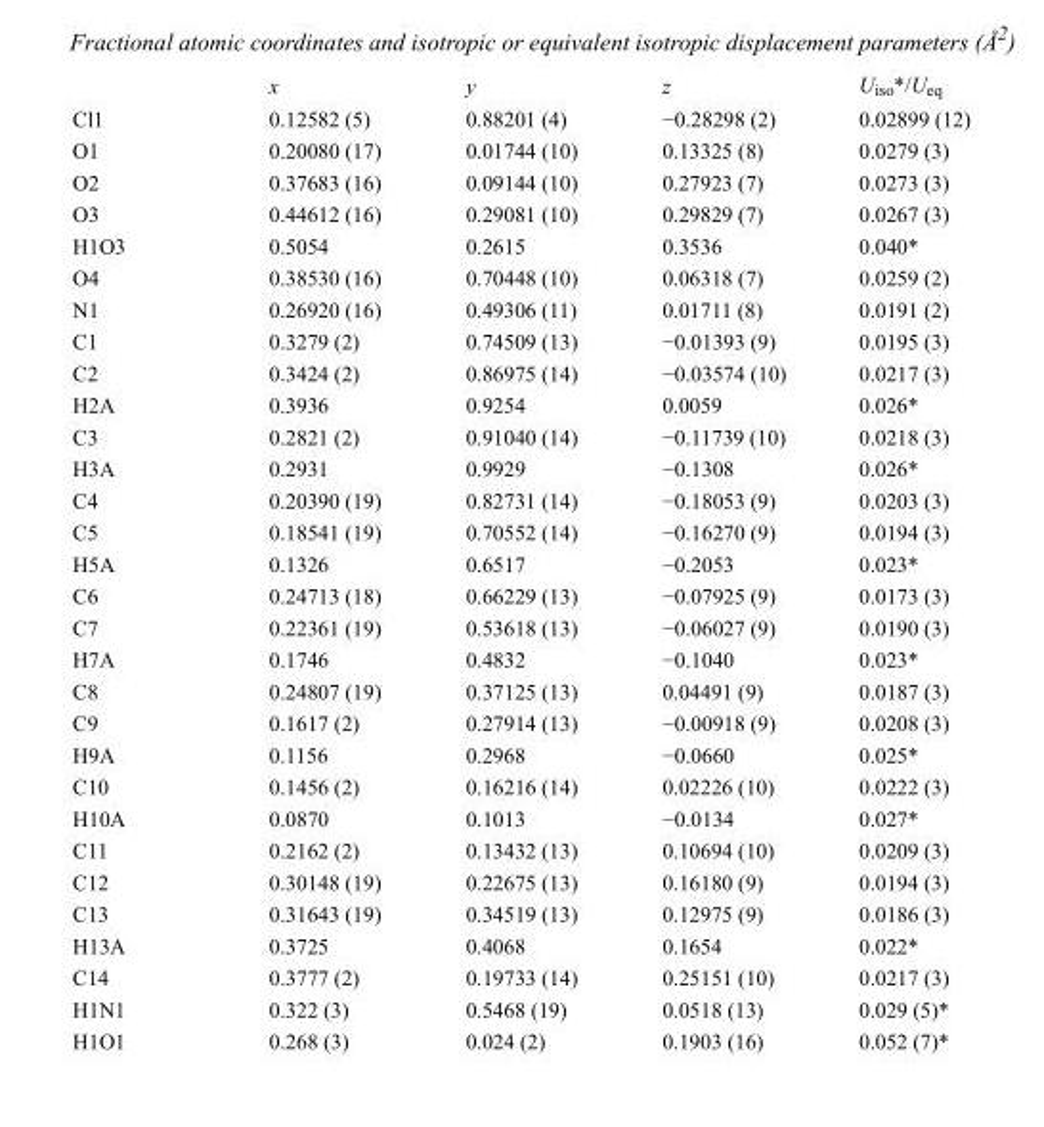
<table><thead><tr><td></td><td>x</td><td>y</td><td>z</td><td>U<sub>iso</sub>*/U<sub>eq</sub></td></tr></thead><tbody><tr><td>Cl1</td><td>0.12582 (5)</td><td>0.88201 (4)</td><td>−0.28298 (2)</td><td>0.02899 (12)</td></tr><tr><td>O1</td><td>0.20080 (17)</td><td>0.01744 (10)</td><td>0.13325 (8)</td><td>0.0279 (3)</td></tr><tr><td>O2</td><td>0.37683 (16)</td><td>0.09144 (10)</td><td>0.27923 (7)</td><td>0.0273 (3)</td></tr><tr><td>O3</td><td>0.44612 (16)</td><td>0.29081 (10)</td><td>0.29829 (7)</td><td>0.0267 (3)</td></tr><tr><td>H1O3</td><td>0.5054</td><td>0.2615</td><td>0.3536</td><td>0.040*</td></tr><tr><td>O4</td><td>0.38530 (16)</td><td>0.70448 (10)</td><td>0.06318 (7)</td><td>0.0259 (2)</td></tr><tr><td>N1</td><td>0.26920 (16)</td><td>0.49306 (11)</td><td>0.01711 (8)</td><td>0.0191 (2)</td></tr><tr><td>C1</td><td>0.3279 (2)</td><td>0.74509 (13)</td><td>−0.01393 (9)</td><td>0.0195 (3)</td></tr><tr><td>C2</td><td>0.3424 (2)</td><td>0.86975 (14)</td><td>−0.03574 (10)</td><td>0.0217 (3)</td></tr><tr><td>H2A</td><td>0.3936</td><td>0.9254</td><td>0.0059</td><td>0.026*</td></tr><tr><td>C3</td><td>0.2821 (2)</td><td>0.91040 (14)</td><td>−0.11739 (10)</td><td>0.0218 (3)</td></tr><tr><td>H3A</td><td>0.2931</td><td>0.9929</td><td>−0.1308</td><td>0.026*</td></tr><tr><td>C4</td><td>0.20390 (19)</td><td>0.82731 (14)</td><td>−0.18053 (9)</td><td>0.0203 (3)</td></tr><tr><td>C5</td><td>0.18541 (19)</td><td>0.70552 (14)</td><td>−0.16270 (9)</td><td>0.0194 (3)</td></tr><tr><td>H5A</td><td>0.1326</td><td>0.6517</td><td>−0.2053</td><td>0.023*</td></tr><tr><td>C6</td><td>0.24713 (18)</td><td>0.66229 (13)</td><td>−0.07925 (9)</td><td>0.0173 (3)</td></tr><tr><td>C7</td><td>0.22361 (19)</td><td>0.53618 (13)</td><td>−0.06027 (9)</td><td>0.0190 (3)</td></tr><tr><td>H7A</td><td>0.1746</td><td>0.4832</td><td>−0.1040</td><td>0.023*</td></tr><tr><td>C8</td><td>0.24807 (19)</td><td>0.37125 (13)</td><td>0.04491 (9)</td><td>0.0187 (3)</td></tr><tr><td>C9</td><td>0.1617 (2)</td><td>0.27914 (13)</td><td>−0.00918 (9)</td><td>0.0208 (3)</td></tr><tr><td>H9A</td><td>0.1156</td><td>0.2968</td><td>−0.0660</td><td>0.025*</td></tr><tr><td>C10</td><td>0.1456 (2)</td><td>0.16216 (14)</td><td>0.02226 (10)</td><td>0.0222 (3)</td></tr><tr><td>H10A</td><td>0.0870</td><td>0.1013</td><td>−0.0134</td><td>0.027*</td></tr><tr><td>C11</td><td>0.2162 (2)</td><td>0.13432 (13)</td><td>0.10694 (10)</td><td>0.0209 (3)</td></tr><tr><td>C12</td><td>0.30148 (19)</td><td>0.22675 (13)</td><td>0.16180 (9)</td><td>0.0194 (3)</td></tr><tr><td>C13</td><td>0.31643 (19)</td><td>0.34519 (13)</td><td>0.12975 (9)</td><td>0.0186 (3)</td></tr><tr><td>H13A</td><td>0.3725</td><td>0.4068</td><td>0.1654</td><td>0.022*</td></tr><tr><td>C14</td><td>0.3777 (2)</td><td>0.19733 (14)</td><td>0.25151 (10)</td><td>0.0217 (3)</td></tr><tr><td>H1N1</td><td>0.322 (3)</td><td>0.5468 (19)</td><td>0.0518 (13)</td><td>0.029 (5)*</td></tr><tr><td>H1O1</td><td>0.268 (3)</td><td>0.024 (2)</td><td>0.1903 (16)</td><td>0.052 (7)*</td></tr></tbody></table>